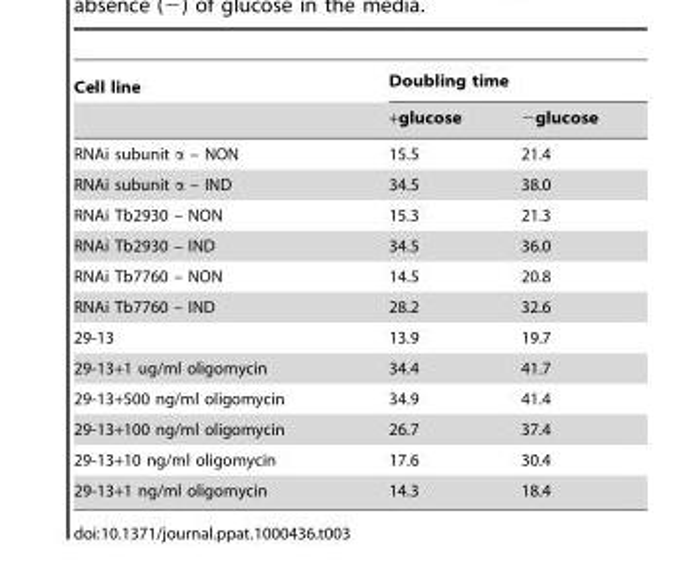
<table><thead><tr><td rowspan="2">Cell line</td><td colspan="2">Doubling time</td></tr><tr><td>+glucose</td><td>−glucose</td></tr></thead><tbody><tr><td>RNAi subunit α – NON</td><td>15.5</td><td>21.4</td></tr><tr><td>RNAi subunit α – IND</td><td>34.5</td><td>38.0</td></tr><tr><td>RNAi Tb2930 – NON</td><td>15.3</td><td>21.3</td></tr><tr><td>RNAi Tb2930 – IND</td><td>34.5</td><td>36.0</td></tr><tr><td>RNAi Tb7760 – NON</td><td>14.5</td><td>20.8</td></tr><tr><td>RNAi Tb7760 – IND</td><td>28.2</td><td>32.6</td></tr><tr><td>29-13</td><td>13.9</td><td>19.7</td></tr><tr><td>29-13+1 ug/ml oligomycin</td><td>34.4</td><td>41.7</td></tr><tr><td>29-13+500 ng/ml oligomycin</td><td>34.9</td><td>41.4</td></tr><tr><td>29-13+100 ng/ml oligomycin</td><td>26.7</td><td>37.4</td></tr><tr><td>29-13+10 ng/ml oligomycin</td><td>17.6</td><td>30.4</td></tr><tr><td>29-13+1 ng/ml oligomycin</td><td>14.3</td><td>18.4</td></tr></tbody></table>